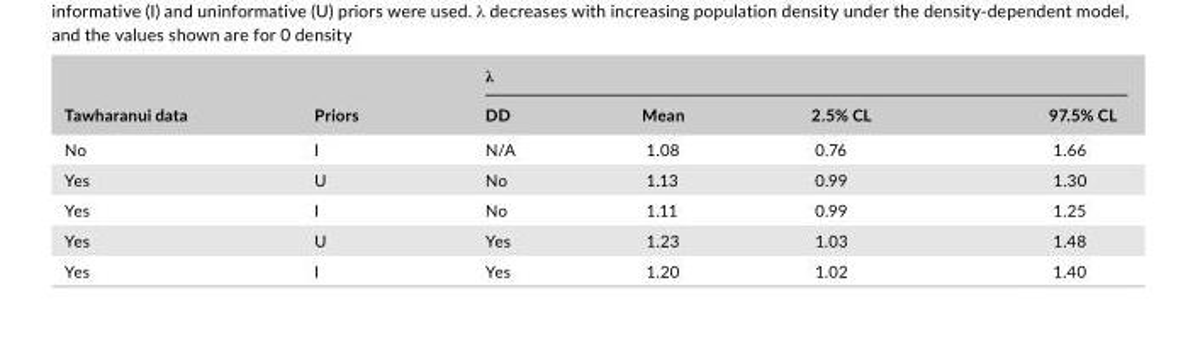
<table><thead><tr><td rowspan="2">Tawharanui data</td><td rowspan="2">Priors</td><td colspan="4">λ</td></tr><tr><td>DD</td><td>Mean</td><td>2.5% CL</td><td>97.5% CL</td></tr></thead><tbody><tr><td>No</td><td>I</td><td>N/A</td><td>1.08</td><td>0.76</td><td>1.66</td></tr><tr><td>Yes</td><td>U</td><td>No</td><td>1.13</td><td>0.99</td><td>1.30</td></tr><tr><td>Yes</td><td>I</td><td>No</td><td>1.11</td><td>0.99</td><td>1.25</td></tr><tr><td>Yes</td><td>U</td><td>Yes</td><td>1.23</td><td>1.03</td><td>1.48</td></tr><tr><td>Yes</td><td>I</td><td>Yes</td><td>1.20</td><td>1.02</td><td>1.40</td></tr></tbody></table>